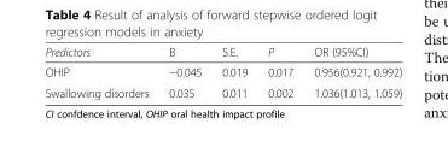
<table><thead><tr><td>Predictors</td><td>B</td><td>S.E.</td><td>P</td><td>OR (95%CI)</td></tr></thead><tbody><tr><td>OHIP</td><td>−0.045</td><td>0.019</td><td>0.017</td><td>0.956(0.921, 0.992)</td></tr><tr><td>Swallowing disorders</td><td>0.035</td><td>0.011</td><td>0.002</td><td>1.036(1.013, 1.059)</td></tr></tbody></table>